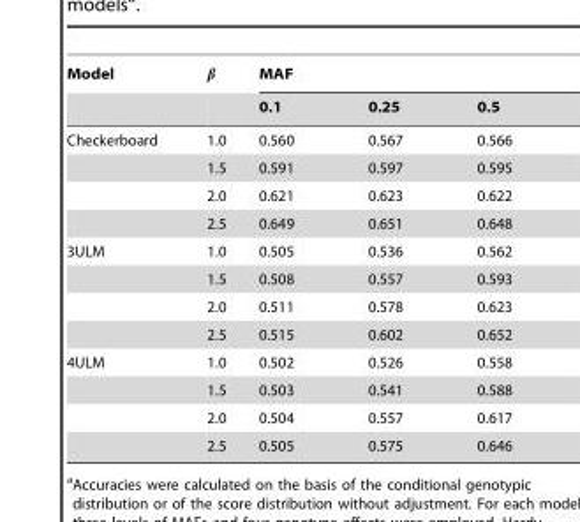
<table><thead><tr><td rowspan="2">Model</td><td rowspan="2">b</td><td colspan="3">MAF</td></tr><tr><td>0.1</td><td>0.25</td><td>0.5</td></tr></thead><tbody><tr><td rowspan="4">Checkerboard</td><td>1.0</td><td>0.560</td><td>0.567</td><td>0.566</td></tr><tr><td>1.5</td><td>0.591</td><td>0.597</td><td>0.595</td></tr><tr><td>2.0</td><td>0.621</td><td>0.623</td><td>0.622</td></tr><tr><td>2.5</td><td>0.649</td><td>0.651</td><td>0.648</td></tr><tr><td rowspan="4">3ULM</td><td>1.0</td><td>0.505</td><td>0.536</td><td>0.562</td></tr><tr><td>1.5</td><td>0.508</td><td>0.557</td><td>0.593</td></tr><tr><td>2.0</td><td>0.511</td><td>0.578</td><td>0.623</td></tr><tr><td>2.5</td><td>0.515</td><td>0.602</td><td>0.652</td></tr><tr><td rowspan="4">4ULM</td><td>1.0</td><td>0.502</td><td>0.526</td><td>0.558</td></tr><tr><td>1.5</td><td>0.503</td><td>0.541</td><td>0.588</td></tr><tr><td>2.0</td><td>0.504</td><td>0.557</td><td>0.617</td></tr><tr><td>2.5</td><td>0.505</td><td>0.575</td><td>0.646</td></tr></tbody></table>